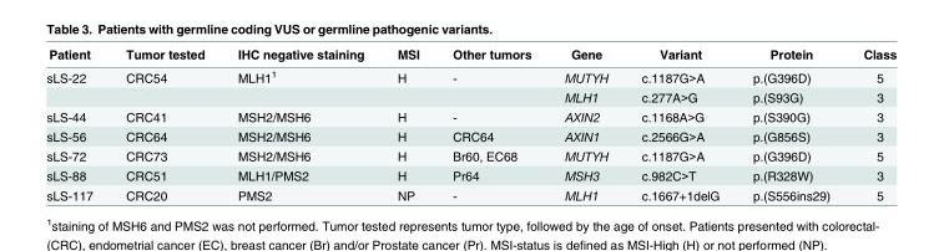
<table><thead><tr><td>Patient</td><td>Tumor tested</td><td>IHC negative staining</td><td>MSI</td><td>Other tumors</td><td>Gene</td><td>Variant</td><td>Protein</td><td>Class</td></tr></thead><tbody><tr><td rowspan="2">sLS-22</td><td>CRC54</td><td>MLH1<sup>1</sup></td><td>H</td><td>-</td><td>MUTYH</td><td>c.1187G&gt;A</td><td>p.(G396D)</td><td>5</td></tr><tr><td></td><td></td><td></td><td></td><td>MLH1</td><td>c.277A&gt;G</td><td>p.(S93G)</td><td>3</td></tr><tr><td>sLS-44</td><td>CRC41</td><td>MSH2/MSH6</td><td>H</td><td>-</td><td>AXIN2</td><td>c.1168A&gt;G</td><td>p.(S390G)</td><td>3</td></tr><tr><td>sLS-56</td><td>CRC64</td><td>MSH2/MSH6</td><td>H</td><td>CRC64</td><td>AXIN1</td><td>c.2566G&gt;A</td><td>p.(G856S)</td><td>3</td></tr><tr><td>sLS-72</td><td>CRC73</td><td>MSH2/MSH6</td><td>H</td><td>Br60, EC68</td><td>MUTYH</td><td>c.1187G&gt;A</td><td>p.(G396D)</td><td>5</td></tr><tr><td>sLS-88</td><td>CRC51</td><td>MLH1/PMS2</td><td>H</td><td>Pr64</td><td>MSH3</td><td>c.982C&gt;T</td><td>p.(R328W)</td><td>3</td></tr><tr><td>sLS-117</td><td>CRC20</td><td>PMS2</td><td>NP</td><td>-</td><td>MLH1</td><td>c.1667+1delG</td><td>p.(S556ins29)</td><td>5</td></tr></tbody></table>